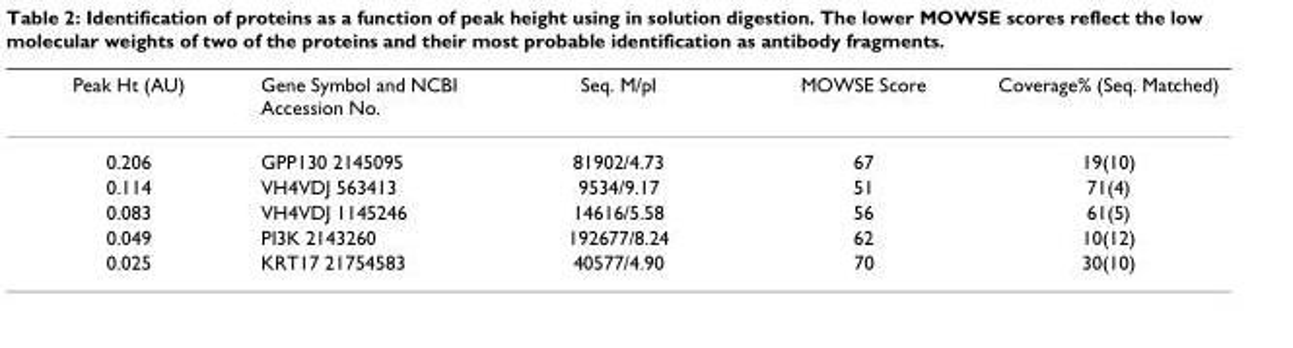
<table><thead><tr><td>Peak Ht (AU)</td><td>Gene Symbol and NCBI Accession No.</td><td>Seq. M/pI</td><td>MOWSE Score</td><td>Coverage% (Seq. Matched)</td></tr></thead><tbody><tr><td>0.206</td><td>GPP130 2145095</td><td>81902/4.73</td><td>67</td><td>19(10)</td></tr><tr><td>0.114</td><td>VH4VDJ 563413</td><td>9534/9.17</td><td>51</td><td>71(4)</td></tr><tr><td>0.083</td><td>VH4VDJ 1145246</td><td>14616/5.58</td><td>56</td><td>61(5)</td></tr><tr><td>0.049</td><td>PI3K 2143260</td><td>192677/8.24</td><td>62</td><td>10(12)</td></tr><tr><td>0.025</td><td>KRT17 21754583</td><td>40577/4.90</td><td>70</td><td>30(10)</td></tr></tbody></table>